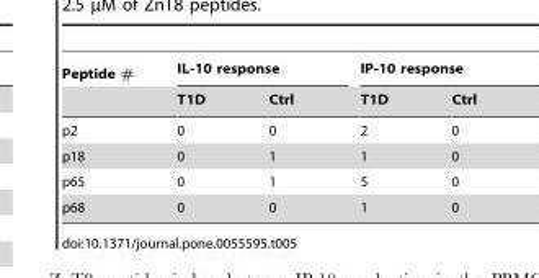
<table><thead><tr><td rowspan="2">Peptide #</td><td colspan="2">IL-10 response</td><td colspan="2">IP-10 response</td></tr><tr><td>T1D</td><td>Ctrl</td><td>T1D</td><td>Ctrl</td></tr></thead><tbody><tr><td>p2</td><td>0</td><td>0</td><td>2</td><td>0</td></tr><tr><td>p18</td><td>0</td><td>1</td><td>1</td><td>0</td></tr><tr><td>p65</td><td>0</td><td>1</td><td>5</td><td>0</td></tr><tr><td>p68</td><td>0</td><td>0</td><td>1</td><td>0</td></tr></tbody></table>